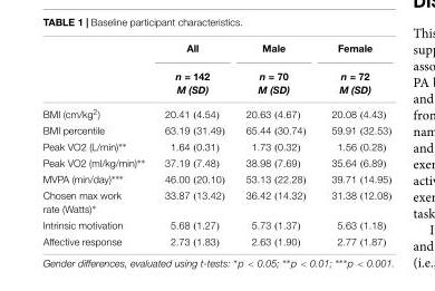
<table><thead><tr><td rowspan="2"></td><td rowspan="2">All n = 142 M (SD)</td><td rowspan="2">Male n = 70 M (SD)</td><td rowspan="2">Female n = 72 M (SD)</td></tr><tr></tr></thead><tbody><tr><td>BMI (cm/kg<sup>2</sup>)</td><td>20.41 (4.54)</td><td>20.63 (4.67)</td><td>20.08 (4.43)</td></tr><tr><td>BMI percentile</td><td>63.19 (31.49)</td><td>65.44 (30.74)</td><td>59.91 (32.53)</td></tr><tr><td>Peak VO2 (L/min)∗∗</td><td>1.64 (0.31)</td><td>1.73 (0.32)</td><td>1.56 (0.28)</td></tr><tr><td>Peak VO2 (ml/kg/min)∗∗</td><td>37.19 (7.48)</td><td>38.98 (7.69)</td><td>35.64 (6.89)</td></tr><tr><td>MVPA (min/day)∗∗∗</td><td>46.00 (20.10)</td><td>53.13 (22.28)</td><td>39.71 (14.95)</td></tr><tr><td>Chosen max work rate (Watts)∗</td><td>33.87 (13.42)</td><td>36.42 (14.32)</td><td>31.38 (12.08)</td></tr><tr><td>Intrinsic motivation</td><td>5.68 (1.27)</td><td>5.73 (1.37)</td><td>5.63 (1.18)</td></tr><tr><td>Affective response</td><td>2.73 (1.83)</td><td>2.63 (1.90)</td><td>2.77 (1.87)</td></tr></tbody></table>